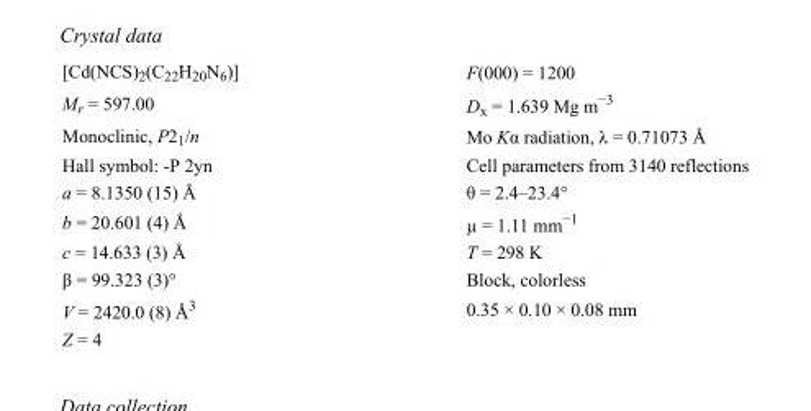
<table><tbody><tr><td>[Cd(NCS)<sub>2</sub>(C<sub>22</sub>H<sub>20</sub>N<sub>6</sub>)]</td><td>F(000) = 1200</td></tr><tr><td>M<sub>r</sub> = 597.00</td><td>D<sub>x</sub> = 1.639 Mg m<sup>−3</sup></td></tr><tr><td>Monoclinic, P2<sub>1</sub>/n</td><td>Mo Kα radiation, λ = 0.71073 Å</td></tr><tr><td>Hall symbol: -P 2yn</td><td>Cell parameters from 3140 reflections</td></tr><tr><td>a = 8.1350 (15) Å</td><td>θ = 2.4–23.4°</td></tr><tr><td>b = 20.601 (4) Å</td><td>µ = 1.11 mm<sup>−1</sup></td></tr><tr><td>c = 14.633 (3) Å</td><td>T = 298 K</td></tr><tr><td>β = 99.323 (3)°</td><td>Block, colorless</td></tr><tr><td>V = 2420.0 (8) Å<sup>3</sup></td><td>0.35 × 0.10 × 0.08 mm</td></tr><tr><td>Z = 4</td><td></td></tr></tbody></table>